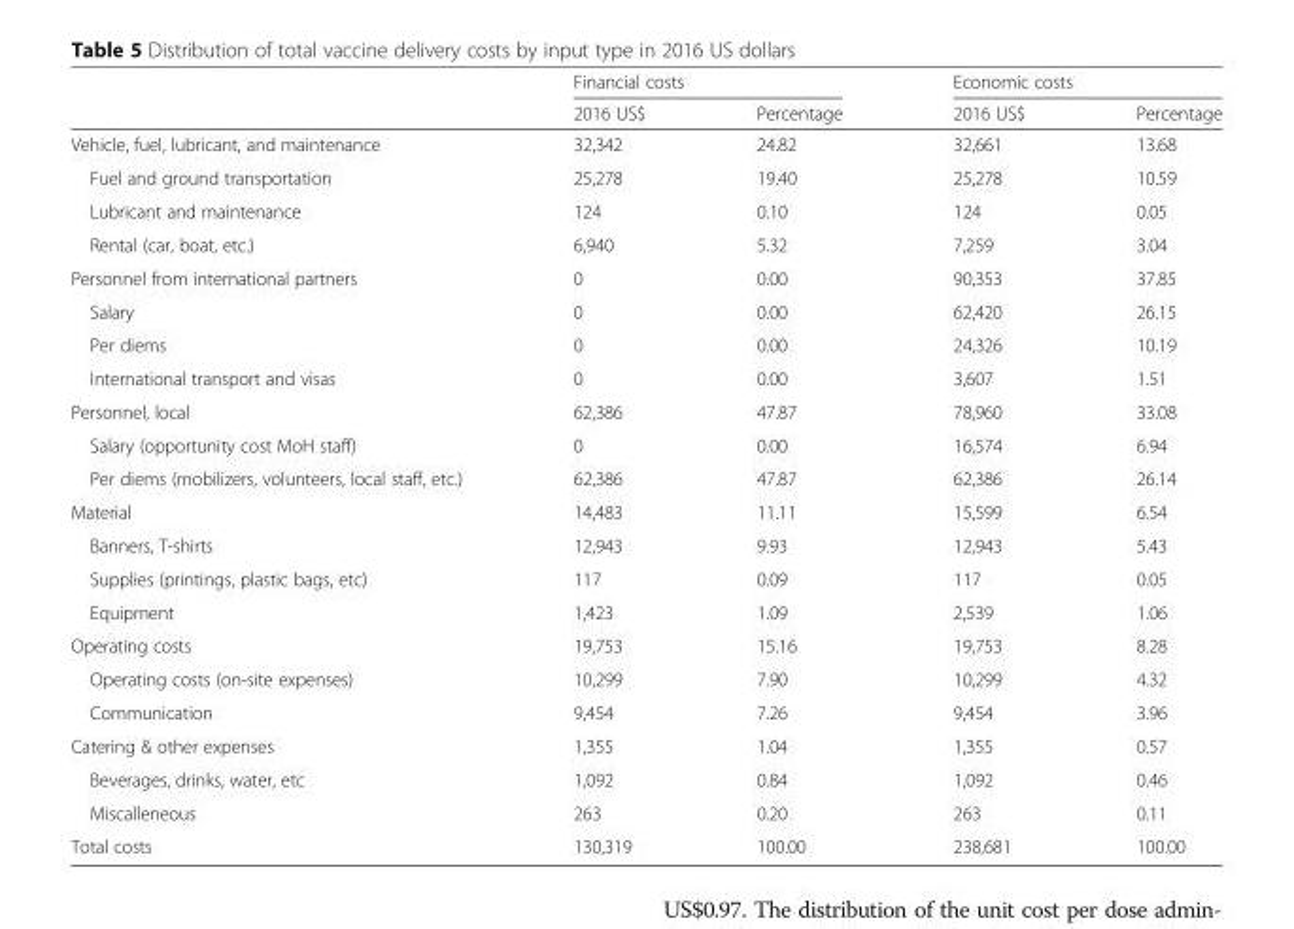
<table><thead><tr><td rowspan="2"></td><td colspan="2">Financial costs</td><td colspan="2">Economic costs</td></tr><tr><td>2016 US$</td><td>Percentage</td><td>2016 US$</td><td>Percentage</td></tr></thead><tbody><tr><td>Vehicle, fuel, lubricant, and maintenance</td><td>32,342</td><td>24.82</td><td>32,661</td><td>13.68</td></tr><tr><td>Fuel and ground transportation</td><td>25,278</td><td>19.40</td><td>25,278</td><td>10.59</td></tr><tr><td>Lubricant and maintenance</td><td>124</td><td>0.10</td><td>124</td><td>0.05</td></tr><tr><td>Rental (car, boat, etc.)</td><td>6,940</td><td>5.32</td><td>7,259</td><td>3.04</td></tr><tr><td>Personnel from international partners</td><td>0</td><td>0.00</td><td>90,353</td><td>37.85</td></tr><tr><td>Salary</td><td>0</td><td>0.00</td><td>62,420</td><td>26.15</td></tr><tr><td>Per diems</td><td>0</td><td>0.00</td><td>24,326</td><td>10.19</td></tr><tr><td>International transport and visas</td><td>0</td><td>0.00</td><td>3,607</td><td>1.51</td></tr><tr><td>Personnel, local</td><td>62,386</td><td>47.87</td><td>78,960</td><td>33.08</td></tr><tr><td>Salary (opportunity cost MoH staff)</td><td>0</td><td>0.00</td><td>16,574</td><td>6.94</td></tr><tr><td>Per diems (mobilizers, volunteers, local staff, etc.)</td><td>62,386</td><td>47.87</td><td>62,386</td><td>26.14</td></tr><tr><td>Material</td><td>14,483</td><td>11.11</td><td>15,599</td><td>6.54</td></tr><tr><td>Banners, T-shirts</td><td>12,943</td><td>9.93</td><td>12,943</td><td>5.43</td></tr><tr><td>Supplies (printings, plastic bags, etc)</td><td>117</td><td>0.09</td><td>117</td><td>0.05</td></tr><tr><td>Equipment</td><td>1,423</td><td>1.09</td><td>2,539</td><td>1.06</td></tr><tr><td>Operating costs</td><td>19,753</td><td>15.16</td><td>19,753</td><td>8.28</td></tr><tr><td>Operating costs (on-site expenses)</td><td>10,299</td><td>7.90</td><td>10,299</td><td>4.32</td></tr><tr><td>Communication</td><td>9,454</td><td>7.26</td><td>9,454</td><td>3.96</td></tr><tr><td>Catering &amp; other expenses</td><td>1,355</td><td>1.04</td><td>1,355</td><td>0.57</td></tr><tr><td>Beverages, drinks, water, etc</td><td>1,092</td><td>0.84</td><td>1,092</td><td>0.46</td></tr><tr><td>Miscalleneous</td><td>263</td><td>0.20</td><td>263</td><td>0.11</td></tr><tr><td>Total costs</td><td>130,319</td><td>100.00</td><td>238,681</td><td>100.00</td></tr></tbody></table>